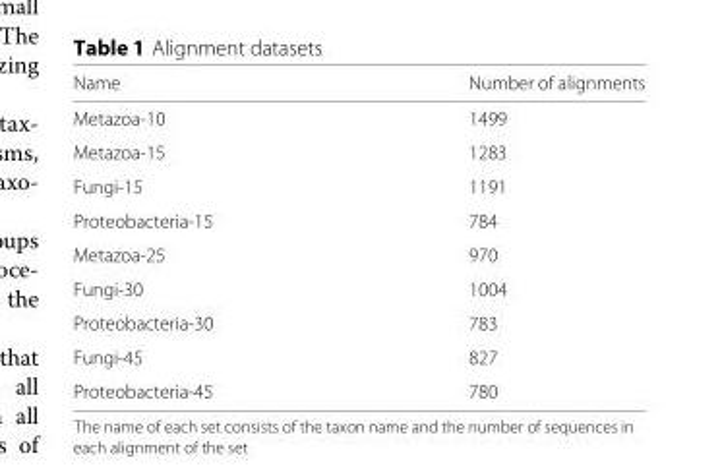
<table><thead><tr><td>Name</td><td>Number of alignments</td></tr></thead><tbody><tr><td>Metazoa-10</td><td>1499</td></tr><tr><td>Metazoa-15</td><td>1283</td></tr><tr><td>Fungi-15</td><td>1191</td></tr><tr><td>Proteobacteria-15</td><td>784</td></tr><tr><td>Metazoa-25</td><td>970</td></tr><tr><td>Fungi-30</td><td>1004</td></tr><tr><td>Proteobacteria-30</td><td>783</td></tr><tr><td>Fungi-45</td><td>827</td></tr><tr><td>Proteobacteria-45</td><td>780</td></tr></tbody></table>